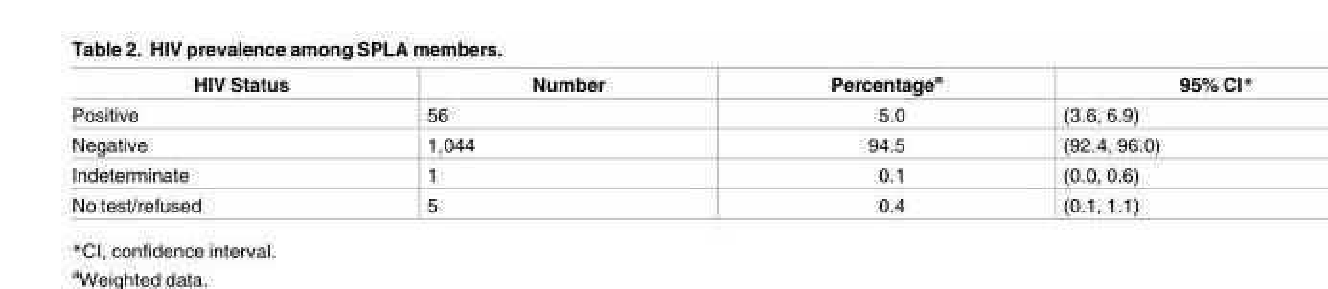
<table><thead><tr><td>HIV Status</td><td>Number</td><td>Percentage<sup>a</sup></td><td>95% CI*</td></tr></thead><tbody><tr><td>Positive</td><td>56</td><td>5.0</td><td>(3.6, 6.9)</td></tr><tr><td>Negative</td><td>1,044</td><td>94.5</td><td>(92.4, 96.0)</td></tr><tr><td>Indeterminate</td><td>1</td><td>0.1</td><td>(0.0, 0.6)</td></tr><tr><td>No test/refused</td><td>5</td><td>0.4</td><td>(0.1, 1.1)</td></tr></tbody></table>